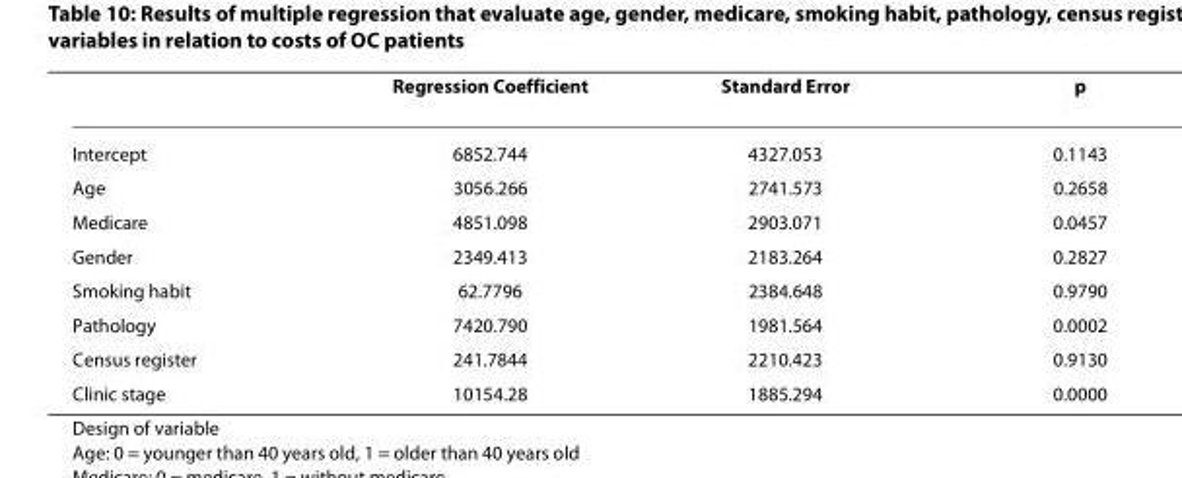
<table><thead><tr><td></td><td>Regression Coefficient</td><td>Standard Error</td><td>p</td></tr></thead><tbody><tr><td>Intercept</td><td>6852.744</td><td>4327.053</td><td>0.1143</td></tr><tr><td>Age</td><td>3056.266</td><td>2741.573</td><td>0.2658</td></tr><tr><td>Medicare</td><td>4851.098</td><td>2903.071</td><td>0.0457</td></tr><tr><td>Gender</td><td>2349.413</td><td>2183.264</td><td>0.2827</td></tr><tr><td>Smoking habit</td><td>62.7796</td><td>2384.648</td><td>0.9790</td></tr><tr><td>Pathology</td><td>7420.790</td><td>1981.564</td><td>0.0002</td></tr><tr><td>Census register</td><td>241.7844</td><td>2210.423</td><td>0.9130</td></tr><tr><td>Clinic stage</td><td>10154.28</td><td>1885.294</td><td>0.0000</td></tr></tbody></table>